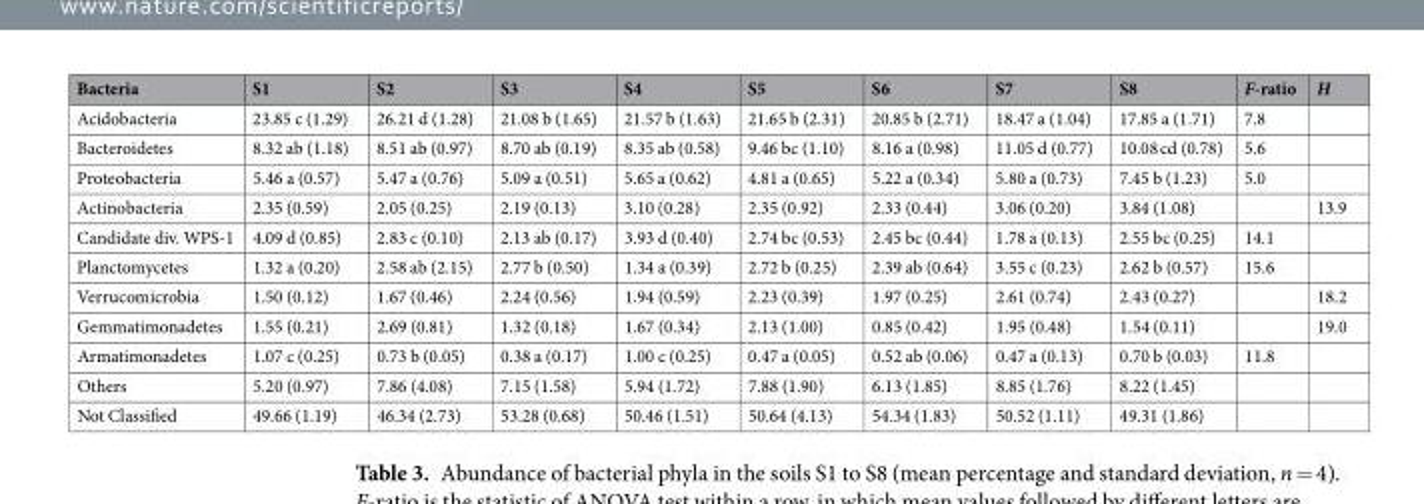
<table><thead><tr><td>Bacteria</td><td>S1</td><td>S2</td><td>S3</td><td>S4</td><td>S5</td><td>S6</td><td>S7</td><td>S8</td><td>F-ratio</td><td>H</td></tr></thead><tbody><tr><td>Acidobacteria</td><td>23.85 c (1.29)</td><td>26.21 d (1.28)</td><td>21.08 b (1.65)</td><td>21.57 b (1.63)</td><td>21.65 b (2.31)</td><td>20.85 b (2.71)</td><td>18.47 a (1.04)</td><td>17.85 a (1.71)</td><td>7.8</td><td></td></tr><tr><td>Bacteroidetes</td><td>8.32 ab (1.18)</td><td>8.51 ab (0.97)</td><td>8.70 ab (0.19)</td><td>8.35 ab (0.58)</td><td>9.46 bc (1.10)</td><td>8.16 a (0.98)</td><td>11.05 d (0.77)</td><td>10.08 cd (0.78)</td><td>5.6</td><td></td></tr><tr><td>Proteobacteria</td><td>5.46 a (0.57)</td><td>5.47 a (0.76)</td><td>5.09 a (0.51)</td><td>5.65 a (0.62)</td><td>4.81 a (0.65)</td><td>5.22 a (0.34)</td><td>5.80 a (0.73)</td><td>7.45 b (1.23)</td><td>5.0</td><td></td></tr><tr><td>Actinobacteria</td><td>2.35 (0.59)</td><td>2.05 (0.25)</td><td>2.19 (0.13)</td><td>3.10 (0.28)</td><td>2.35 (0.92)</td><td>2.33 (0.44)</td><td>3.06 (0.20)</td><td>3.84 (1.08)</td><td></td><td>13.9</td></tr><tr><td>Candidate div. WPS-1</td><td>4.09 d (0.85)</td><td>2.83 c (0.10)</td><td>2.13 ab (0.17)</td><td>3.93 d (0.40)</td><td>2.74 bc (0.53)</td><td>2.45 bc (0.44)</td><td>1.78 a (0.13)</td><td>2.55 bc (0.25)</td><td>14.1</td><td></td></tr><tr><td>Planctomycetes</td><td>1.32 a (0.20)</td><td>2.58 ab (2.15)</td><td>2.77 b (0.50)</td><td>1.34 a (0.39)</td><td>2.72 b (0.25)</td><td>2.39 ab (0.64)</td><td>3.55 c (0.23)</td><td>2.62 b (0.57)</td><td>15.6</td><td></td></tr><tr><td>Verrucomicrobia</td><td>1.50 (0.12)</td><td>1.67 (0.46)</td><td>2.24 (0.56)</td><td>1.94 (0.59)</td><td>2.23 (0.39)</td><td>1.97 (0.25)</td><td>2.61 (0.74)</td><td>2.43 (0.27)</td><td></td><td>18.2</td></tr><tr><td>Gemmatimonadetes</td><td>1.55 (0.21)</td><td>2.69 (0.81)</td><td>1.32 (0.18)</td><td>1.67 (0.34)</td><td>2.13 (1.00)</td><td>0.85 (0.42)</td><td>1.95 (0.48)</td><td>1.54 (0.11)</td><td></td><td>19.0</td></tr><tr><td>Armatimonadetes</td><td>1.07 c (0.25)</td><td>0.73 b (0.05)</td><td>0.38 a (0.17)</td><td>1.00 c (0.25)</td><td>0.47 a (0.05)</td><td>0.52 ab (0.06)</td><td>0.47 a (0.13)</td><td>0.70 b (0.03)</td><td>11.8</td><td></td></tr><tr><td>Others</td><td>5.20 (0.97)</td><td>7.86 (4.08)</td><td>7.15 (1.58)</td><td>5.94 (1.72)</td><td>7.88 (1.90)</td><td>6.13 (1.85)</td><td>8.85 (1.76)</td><td>8.22 (1.45)</td><td></td><td></td></tr><tr><td>Not Classified</td><td>49.66 (1.19)</td><td>46.34 (2.73)</td><td>53.28 (0.68)</td><td>50.46 (1.51)</td><td>50.64 (4.13)</td><td>54.34 (1.83)</td><td>50.52 (1.11)</td><td>49.31 (1.86)</td><td></td><td></td></tr></tbody></table>